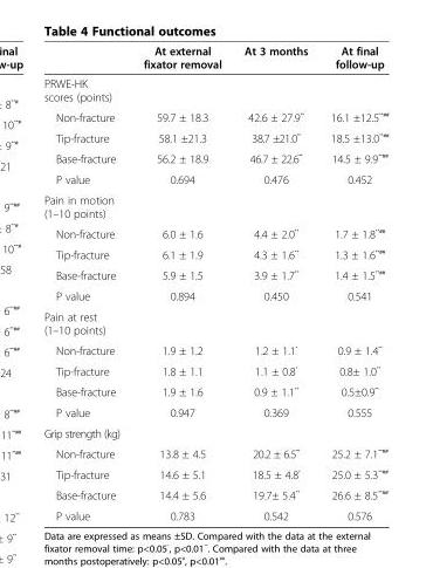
<table><thead><tr><td></td><td>At external fixator removal</td><td>At 3 months</td><td>At final follow-up</td></tr></thead><tbody><tr><td colspan="4">PRWE-HK scores (points)</td></tr><tr><td>Non-fracture</td><td>59.7 ± 18.3</td><td>42.6 ± 27.9﹡﹡</td><td>16.1 ±12.5<sup>﹡﹡﹟﹟</sup></td></tr><tr><td>Tip-fracture</td><td>58.1 ±21.3</td><td>38.7 ±21.0﹡﹡</td><td>18.5 ±13.0<sup>﹡﹡﹟﹟</sup></td></tr><tr><td>Base-fracture</td><td>56.2 ± 18.9</td><td>46.7 ± 22.6﹡﹡</td><td>14.5 ± 9.9<sup>﹡﹡﹟﹟</sup></td></tr><tr><td>P value</td><td>0.694</td><td>0.476</td><td>0.452</td></tr><tr><td colspan="4">Pain in motion (1–10 points)</td></tr><tr><td>Non-fracture</td><td>6.0 ± 1.6</td><td>4.4 ± 2.0﹡﹡</td><td>1.7 ± 1.8<sup>﹡﹡﹟﹟</sup></td></tr><tr><td>Tip-fracture</td><td>6.1 ± 1.9</td><td>4.3 ± 1.6﹡﹡</td><td>1.3 ± 1.6<sup>﹡﹡﹟﹟</sup></td></tr><tr><td>Base-fracture</td><td>5.9 ± 1.5</td><td>3.9 ± 1.7﹡﹡</td><td>1.4 ± 1.5<sup>﹡﹡﹟﹟</sup></td></tr><tr><td>P value</td><td>0.894</td><td>0.450</td><td>0.541</td></tr><tr><td colspan="4">Pain at rest (1–10 points)</td></tr><tr><td>Non-fracture</td><td>1.9 ± 1.2</td><td>1.2 ± 1.1﹡</td><td>0.9 ± 1.4﹡﹡</td></tr><tr><td>Tip-fracture</td><td>1.8 ± 1.1</td><td>1.1 ± 0.8﹡</td><td>0.8± 1.0﹡﹡</td></tr><tr><td>Base-fracture</td><td>1.9 ± 1.6</td><td>0.9 ± 1.1﹡﹡</td><td>0.5±0.9﹡﹡</td></tr><tr><td>P value</td><td>0.947</td><td>0.369</td><td>0.555</td></tr><tr><td colspan="4">Grip strength (kg)</td></tr><tr><td>Non-fracture</td><td>13.8 ± 4.5</td><td>20.2 ± 6.5﹡﹡</td><td>25.2 ± 7.1<sup>﹡﹡﹟﹟</sup></td></tr><tr><td>Tip-fracture</td><td>14.6 ± 5.1</td><td>18.5 ± 4.8﹡</td><td>25.0 ± 5.3<sup>﹡﹡﹟﹟</sup></td></tr><tr><td>Base-fracture</td><td>14.4 ± 5.6</td><td>19.7± 5.4﹡﹡</td><td>26.6 ± 8.5<sup>﹡﹡﹟﹟</sup></td></tr><tr><td>P value</td><td>0.783</td><td>0.542</td><td>0.576</td></tr></tbody></table>